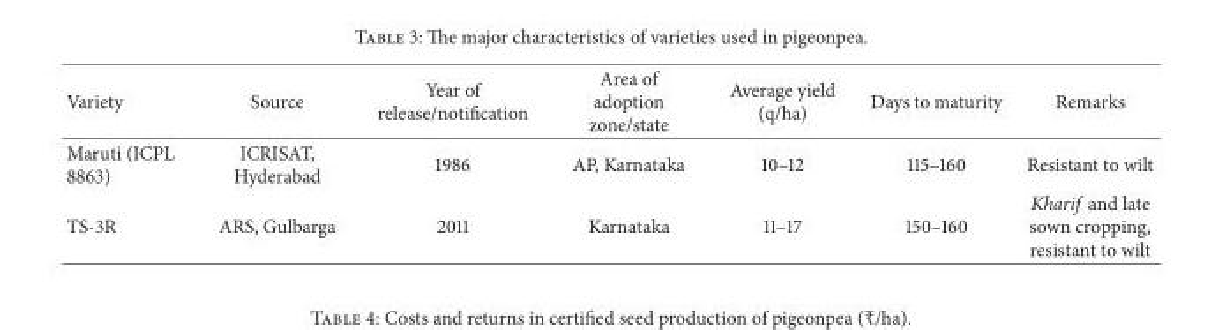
<table><thead><tr><td>Variety</td><td>Source</td><td>Year of release/notification</td><td>Area of adoption zone/state</td><td>Average yield (q/ha)</td><td>Days to maturity</td><td>Remarks</td></tr></thead><tbody><tr><td>Maruti (ICPL 8863)</td><td>ICRISAT, Hyderabad</td><td>1986</td><td>AP, Karnataka</td><td>10–12</td><td>115–160</td><td>Resistant to wilt</td></tr><tr><td>TS-3R</td><td>ARS, Gulbarga</td><td>2011</td><td>Karnataka</td><td>11–17</td><td>150–160</td><td>Kharif and late sown cropping, resistant to wilt</td></tr></tbody></table>